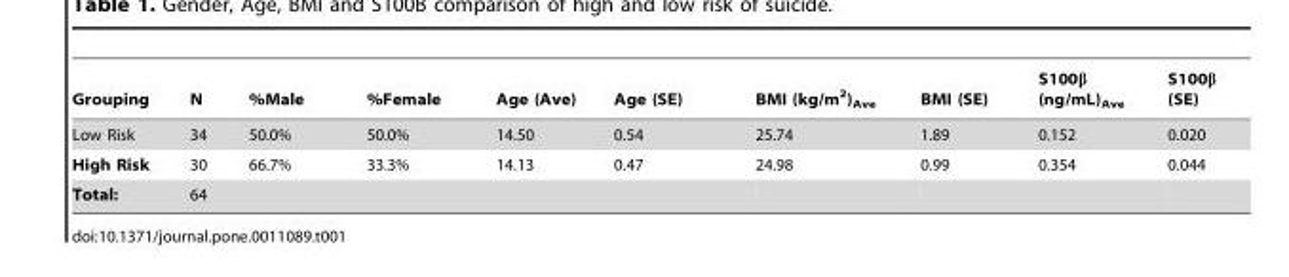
<table><thead><tr><td>Grouping</td><td>N</td><td>%Male</td><td>%Female</td><td>Age (Ave)</td><td>Age (SE)</td><td>BMI (kg/m<sup>2</sup>)<sub>Ave</sub></td><td>BMI (SE)</td><td>S100β (ng/mL)<sub>Ave</sub></td><td>S100β (SE)</td></tr></thead><tbody><tr><td>Low Risk</td><td>34</td><td>50.0%</td><td>50.0%</td><td>14.50</td><td>0.54</td><td>25.74</td><td>1.89</td><td>0.152</td><td>0.020</td></tr><tr><td>High Risk</td><td>30</td><td>66.7%</td><td>33.3%</td><td>14.13</td><td>0.47</td><td>24.98</td><td>0.99</td><td>0.354</td><td>0.044</td></tr><tr><td>Total:</td><td>64</td><td></td><td></td><td></td><td></td><td></td><td></td><td></td><td></td></tr></tbody></table>